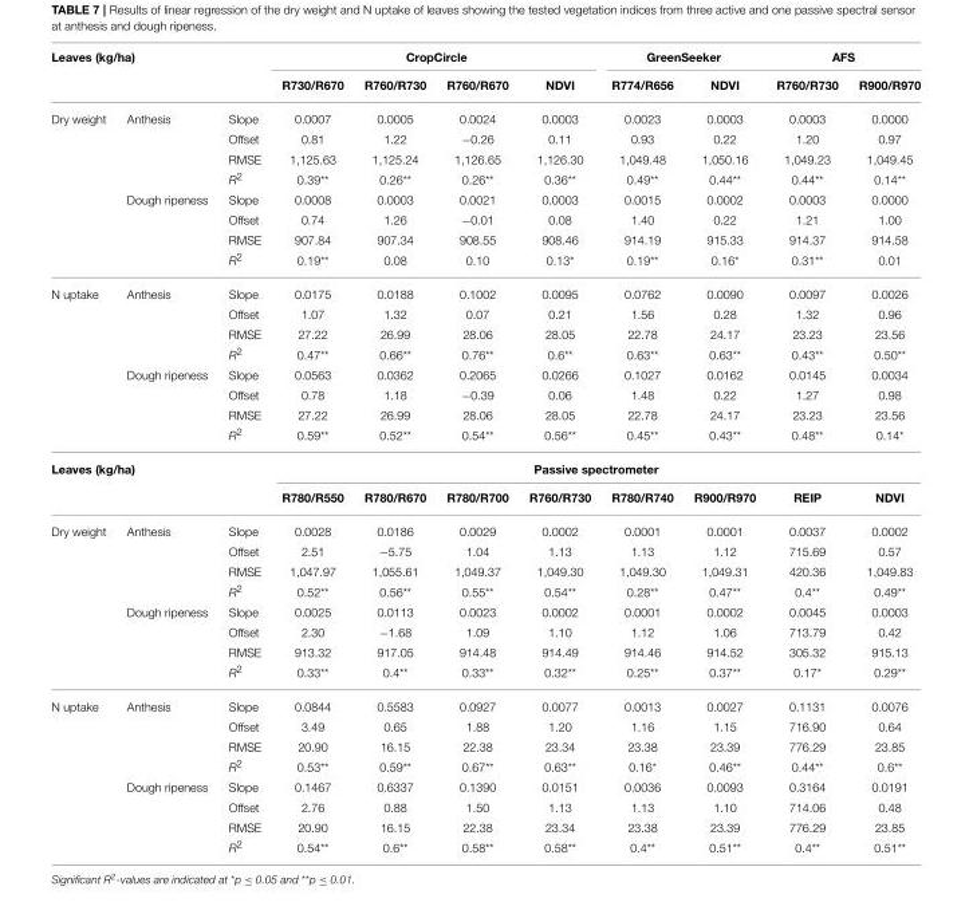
<table><thead><tr><td colspan="3">Leaves (kg/ha)</td><td colspan="4">CropCircle</td><td colspan="2">GreenSeeker</td><td colspan="2">AFS</td></tr><tr><td></td><td></td><td></td><td>R730/R670</td><td>R760/R730</td><td>R760/R670</td><td>NDVI</td><td>R774/R656</td><td>NDVI</td><td>R760/R730</td><td>R900/R970</td></tr></thead><tbody><tr><td rowspan="8">Dry weight</td><td>Anthesis</td><td>Slope</td><td>0.0007</td><td>0.0005</td><td>0.0024</td><td>0.0003</td><td>0.0023</td><td>0.0003</td><td>0.0003</td><td>0.0000</td></tr><tr><td></td><td>Offset</td><td>0.81</td><td>1.22</td><td>−0.26</td><td>0.11</td><td>0.93</td><td>0.22</td><td>1.20</td><td>0.97</td></tr><tr><td></td><td>RMSE</td><td>1,125.63</td><td>1,125.24</td><td>1,126.65</td><td>1,126.30</td><td>1,049.48</td><td>1,050.16</td><td>1,049.23</td><td>1,049.45</td></tr><tr><td></td><td>R<sup>2</sup></td><td>0.39**</td><td>0.26**</td><td>0.26**</td><td>0.36**</td><td>0.49**</td><td>0.44**</td><td>0.44**</td><td>0.14**</td></tr><tr><td>Dough ripeness</td><td>Slope</td><td>0.0008</td><td>0.0003</td><td>0.0021</td><td>0.0003</td><td>0.0015</td><td>0.0002</td><td>0.0003</td><td>0.0000</td></tr><tr><td></td><td>Offset</td><td>0.74</td><td>1.26</td><td>−0.01</td><td>0.08</td><td>1.40</td><td>0.22</td><td>1.21</td><td>1.00</td></tr><tr><td></td><td>RMSE</td><td>907.84</td><td>907.34</td><td>908.55</td><td>908.46</td><td>914.19</td><td>915.33</td><td>914.37</td><td>914.58</td></tr><tr><td></td><td>R<sup>2</sup></td><td>0.19**</td><td>0.08</td><td>0.10</td><td>0.13*</td><td>0.19**</td><td>0.16*</td><td>0.31**</td><td>0.01</td></tr><tr><td rowspan="8">N uptake</td><td>Anthesis</td><td>Slope</td><td>0.0175</td><td>0.0188</td><td>0.1002</td><td>0.0095</td><td>0.0762</td><td>0.0090</td><td>0.0097</td><td>0.0026</td></tr><tr><td></td><td>Offset</td><td>1.07</td><td>1.32</td><td>0.07</td><td>0.21</td><td>1.56</td><td>0.28</td><td>1.32</td><td>0.96</td></tr><tr><td></td><td>RMSE</td><td>27.22</td><td>26.99</td><td>28.06</td><td>28.05</td><td>22.78</td><td>24.17</td><td>23.23</td><td>23.56</td></tr><tr><td></td><td>R<sup>2</sup></td><td>0.47**</td><td>0.66**</td><td>0.76**</td><td>0.6**</td><td>0.63**</td><td>0.63**</td><td>0.43**</td><td>0.50**</td></tr><tr><td>Dough ripeness</td><td>Slope</td><td>0.0563</td><td>0.0362</td><td>0.2065</td><td>0.0266</td><td>0.1027</td><td>0.0162</td><td>0.0145</td><td>0.0034</td></tr><tr><td></td><td>Offset</td><td>0.78</td><td>1.18</td><td>−0.39</td><td>0.06</td><td>1.48</td><td>0.22</td><td>1.27</td><td>0.98</td></tr><tr><td></td><td>RMSE</td><td>27.22</td><td>26.99</td><td>28.06</td><td>28.05</td><td>22.78</td><td>24.17</td><td>23.23</td><td>23.56</td></tr><tr><td></td><td>R<sup>2</sup></td><td>0.59**</td><td>0.52**</td><td>0.54**</td><td>0.56**</td><td>0.45**</td><td>0.43**</td><td>0.48**</td><td>0.14*</td></tr><tr><td colspan="3">Leaves (kg/ha)</td><td colspan="8">Passive spectrometer</td></tr><tr><td></td><td></td><td></td><td>R780/R550</td><td>R780/R670</td><td>R780/R700</td><td>R760/R730</td><td>R780/R740</td><td>R900/R970</td><td>REIP</td><td>NDVI</td></tr><tr><td rowspan="8">Dry weight</td><td>Anthesis</td><td>Slope</td><td>0.0028</td><td>0.0186</td><td>0.0029</td><td>0.0002</td><td>0.0001</td><td>0.0001</td><td>0.0037</td><td>0.0002</td></tr><tr><td></td><td>Offset</td><td>2.51</td><td>−5.75</td><td>1.04</td><td>1.13</td><td>1.13</td><td>1.12</td><td>715.69</td><td>0.57</td></tr><tr><td></td><td>RMSE</td><td>1,047.97</td><td>1,055.61</td><td>1,049.37</td><td>1,049.30</td><td>1,049.30</td><td>1,049.31</td><td>420.36</td><td>1,049.83</td></tr><tr><td></td><td>R<sup>2</sup></td><td>0.52**</td><td>0.56**</td><td>0.55**</td><td>0.54**</td><td>0.28**</td><td>0.47**</td><td>0.4**</td><td>0.49**</td></tr><tr><td>Dough ripeness</td><td>Slope</td><td>0.0025</td><td>0.0113</td><td>0.0023</td><td>0.0002</td><td>0.0001</td><td>0.0002</td><td>0.0045</td><td>0.0003</td></tr><tr><td></td><td>Offset</td><td>2.30</td><td>−1.68</td><td>1.09</td><td>1.10</td><td>1.12</td><td>1.06</td><td>713.79</td><td>0.42</td></tr><tr><td></td><td>RMSE</td><td>913.32</td><td>917.05</td><td>914.48</td><td>914.49</td><td>914.46</td><td>914.52</td><td>305.32</td><td>915.13</td></tr><tr><td></td><td>R<sup>2</sup></td><td>0.33**</td><td>0.4**</td><td>0.33**</td><td>0.32**</td><td>0.25**</td><td>0.37**</td><td>0.17*</td><td>0.29**</td></tr><tr><td rowspan="8">N uptake</td><td>Anthesis</td><td>Slope</td><td>0.0844</td><td>0.5583</td><td>0.0927</td><td>0.0077</td><td>0.0013</td><td>0.0027</td><td>0.1131</td><td>0.0076</td></tr><tr><td></td><td>Offset</td><td>3.49</td><td>0.65</td><td>1.88</td><td>1.20</td><td>1.16</td><td>1.15</td><td>716.90</td><td>0.64</td></tr><tr><td></td><td>RMSE</td><td>20.90</td><td>16.15</td><td>22.38</td><td>23.34</td><td>23.38</td><td>23.39</td><td>776.29</td><td>23.85</td></tr><tr><td></td><td>R<sup>2</sup></td><td>0.53**</td><td>0.59**</td><td>0.67**</td><td>0.63**</td><td>0.16*</td><td>0.46**</td><td>0.44**</td><td>0.6**</td></tr><tr><td>Dough ripeness</td><td>Slope</td><td>0.1467</td><td>0.6337</td><td>0.1390</td><td>0.0151</td><td>0.0036</td><td>0.0093</td><td>0.3164</td><td>0.0191</td></tr><tr><td></td><td>Offset</td><td>2.76</td><td>0.88</td><td>1.50</td><td>1.13</td><td>1.13</td><td>1.10</td><td>714.06</td><td>0.48</td></tr><tr><td></td><td>RMSE</td><td>20.90</td><td>16.15</td><td>22.38</td><td>23.34</td><td>23.38</td><td>23.39</td><td>776.29</td><td>23.85</td></tr><tr><td></td><td>R<sup>2</sup></td><td>0.54**</td><td>0.6**</td><td>0.58**</td><td>0.58**</td><td>0.4**</td><td>0.51**</td><td>0.4**</td><td>0.51**</td></tr></tbody></table>